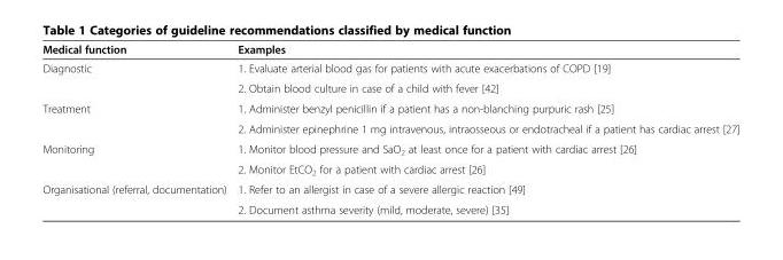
<table><thead><tr><td>Medical function</td><td>Examples</td></tr></thead><tbody><tr><td rowspan="2">Diagnostic</td><td>1. Evaluate arterial blood gas for patients with acute exacerbations of COPD [19]</td></tr><tr><td>2. Obtain blood culture in case of a child with fever [42]</td></tr><tr><td rowspan="2">Treatment</td><td>1. Administer benzyl penicillin if a patient has a non-blanching purpuric rash [25]</td></tr><tr><td>2. Administer epinephrine 1 mg intravenous, intraosseous or endotracheal if a patient has cardiac arrest [27]</td></tr><tr><td rowspan="2">Monitoring</td><td>1. Monitor blood pressure and SaO<sub>2</sub> at least once for a patient with cardiac arrest [26]</td></tr><tr><td>2. Monitor EtCO<sub>2</sub> for a patient with cardiac arrest [26]</td></tr><tr><td rowspan="2">Organisational (referral, documentation)</td><td>1. Refer to an allergist in case of a severe allergic reaction [49]</td></tr><tr><td>2. Document asthma severity (mild, moderate, severe) [35]</td></tr></tbody></table>